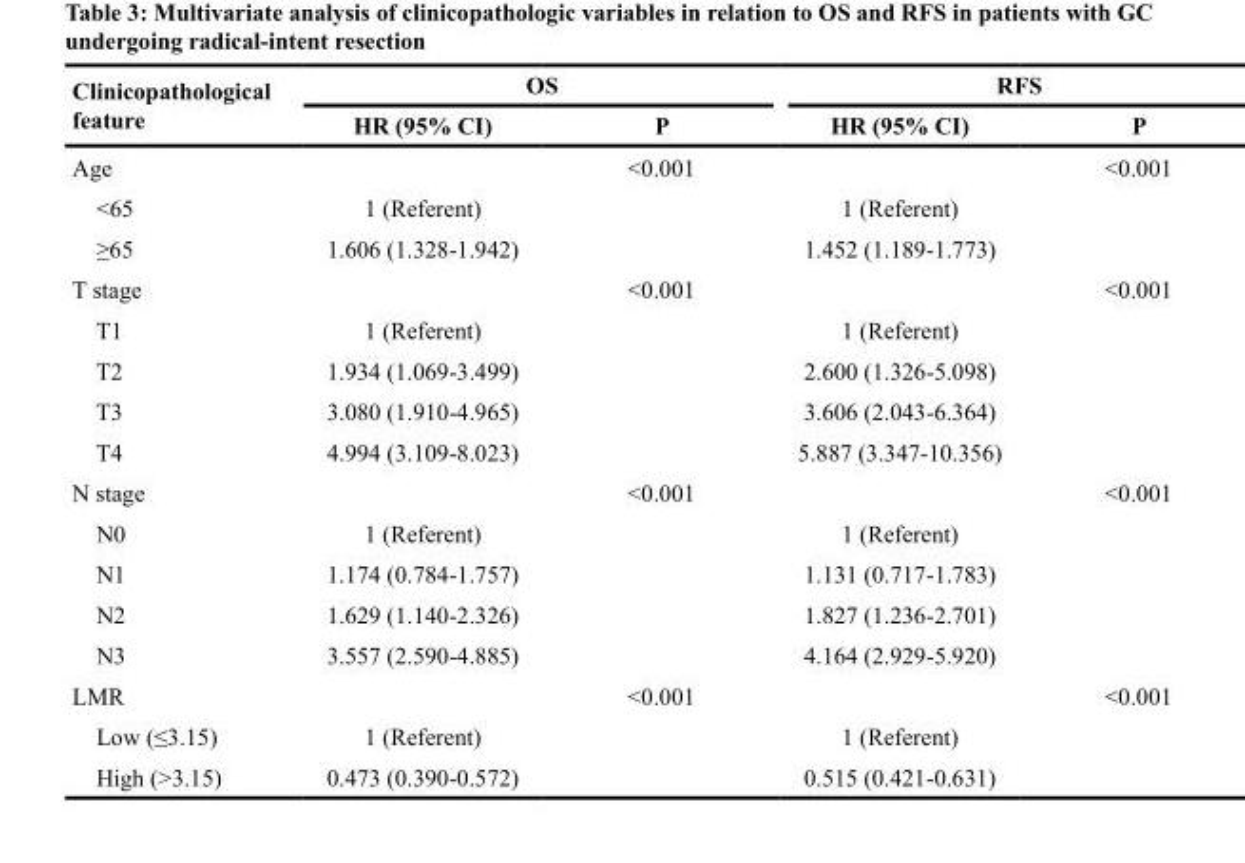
<table><thead><tr><td rowspan="2">Clinicopathological feature</td><td colspan="2">OS</td><td colspan="2">RFS</td></tr><tr><td>HR (95% CI)</td><td>P</td><td>HR (95% CI)</td><td>P</td></tr></thead><tbody><tr><td>Age</td><td></td><td>&lt;0.001</td><td></td><td>&lt;0.001</td></tr><tr><td>&lt;65</td><td>1 (Referent)</td><td></td><td>1 (Referent)</td><td></td></tr><tr><td>≥65</td><td>1.606 (1.328-1.942)</td><td></td><td>1.452 (1.189-1.773)</td><td></td></tr><tr><td>T stage</td><td></td><td>&lt;0.001</td><td></td><td>&lt;0.001</td></tr><tr><td>T1</td><td>1 (Referent)</td><td></td><td>1 (Referent)</td><td></td></tr><tr><td>T2</td><td>1.934 (1.069-3.499)</td><td></td><td>2.600 (1.326-5.098)</td><td></td></tr><tr><td>T3</td><td>3.080 (1.910-4.965)</td><td></td><td>3.606 (2.043-6.364)</td><td></td></tr><tr><td>T4</td><td>4.994 (3.109-8.023)</td><td></td><td>5.887 (3.347-10.356)</td><td></td></tr><tr><td>N stage</td><td></td><td>&lt;0.001</td><td></td><td>&lt;0.001</td></tr><tr><td>N0</td><td>1 (Referent)</td><td></td><td>1 (Referent)</td><td></td></tr><tr><td>N1</td><td>1.174 (0.784-1.757)</td><td></td><td>1.131 (0.717-1.783)</td><td></td></tr><tr><td>N2</td><td>1.629 (1.140-2.326)</td><td></td><td>1.827 (1.236-2.701)</td><td></td></tr><tr><td>N3</td><td>3.557 (2.590-4.885)</td><td></td><td>4.164 (2.929-5.920)</td><td></td></tr><tr><td>LMR</td><td></td><td>&lt;0.001</td><td></td><td>&lt;0.001</td></tr><tr><td>Low (≤3.15)</td><td>1 (Referent)</td><td></td><td>1 (Referent)</td><td></td></tr><tr><td>High (&gt;3.15)</td><td>0.473 (0.390-0.572)</td><td></td><td>0.515 (0.421-0.631)</td><td></td></tr></tbody></table>